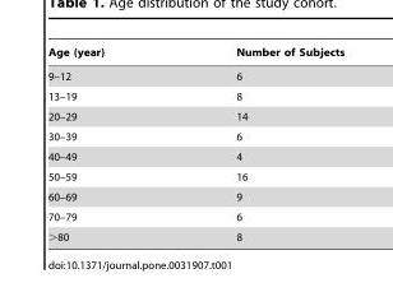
<table><thead><tr><td>Age (year)</td><td>Number of Subjects</td></tr></thead><tbody><tr><td>9–12</td><td>6</td></tr><tr><td>13–19</td><td>8</td></tr><tr><td>20–29</td><td>14</td></tr><tr><td>30–39</td><td>6</td></tr><tr><td>40–49</td><td>4</td></tr><tr><td>50–59</td><td>16</td></tr><tr><td>60–69</td><td>9</td></tr><tr><td>70–79</td><td>6</td></tr><tr><td>&gt;80</td><td>8</td></tr></tbody></table>